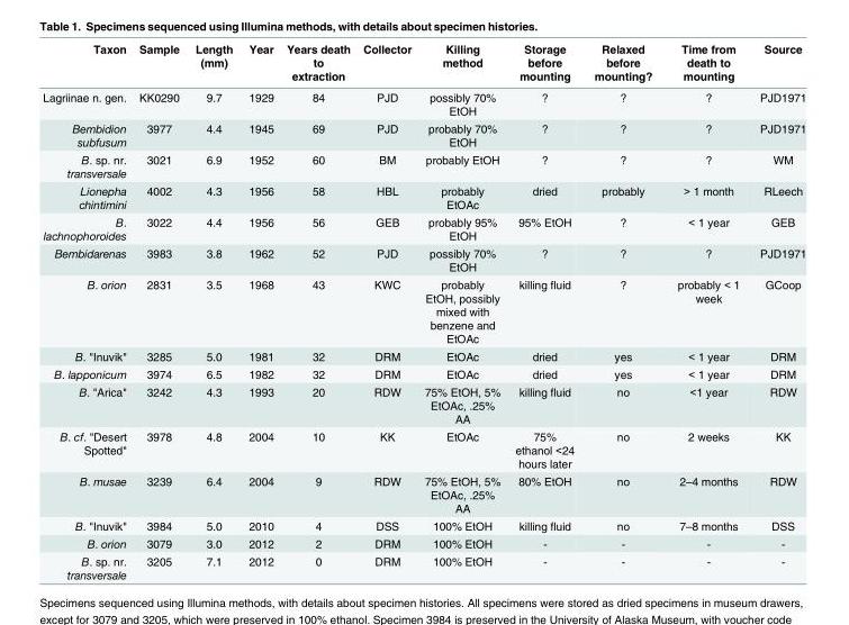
<table><thead><tr><td>Taxon</td><td>Sample</td><td>Length (mm)</td><td>Year</td><td>Years death to extraction</td><td>Collector</td><td>Killing method</td><td>Storage before mounting</td><td>Relaxed before mounting?</td><td>Time from death to mounting</td><td>Source</td></tr></thead><tbody><tr><td>Lagriinae n. gen.</td><td>KK0290</td><td>9.7</td><td>1929</td><td>84</td><td>PJD</td><td>possibly 70% EtOH</td><td>?</td><td>?</td><td>?</td><td>PJD1971</td></tr><tr><td>Bembidion subfusum</td><td>3977</td><td>4.4</td><td>1945</td><td>69</td><td>PJD</td><td>probably 70% EtOH</td><td>?</td><td>?</td><td>?</td><td>PJD1971</td></tr><tr><td>B. sp. nr. transversale</td><td>3021</td><td>6.9</td><td>1952</td><td>60</td><td>BM</td><td>probably EtOH</td><td>?</td><td>?</td><td>?</td><td>WM</td></tr><tr><td>Lionepha chintimini</td><td>4002</td><td>4.3</td><td>1956</td><td>58</td><td>HBL</td><td>probably EtOAc</td><td>dried</td><td>probably</td><td>&gt; 1 month</td><td>RLeech</td></tr><tr><td>B. lachnophoroides</td><td>3022</td><td>4.4</td><td>1956</td><td>56</td><td>GEB</td><td>probably 95% EtOH</td><td>95% EtOH</td><td>?</td><td>&lt; 1 year</td><td>GEB</td></tr><tr><td>Bembidarenas</td><td>3983</td><td>3.8</td><td>1962</td><td>52</td><td>PJD</td><td>possibly 70% EtOH</td><td>?</td><td>?</td><td>?</td><td>PJD1971</td></tr><tr><td>B. orion</td><td>2831</td><td>3.5</td><td>1968</td><td>43</td><td>KWC</td><td>probably EtOH, possibly mixed with benzene and EtOAc</td><td>killing fluid</td><td>?</td><td>probably &lt; 1 week</td><td>GCoop</td></tr><tr><td>B. &quot;Inuvik&quot;</td><td>3285</td><td>5.0</td><td>1981</td><td>32</td><td>DRM</td><td>EtOAc</td><td>dried</td><td>yes</td><td>&lt; 1 year</td><td>DRM</td></tr><tr><td>B. lapponicum</td><td>3974</td><td>6.5</td><td>1982</td><td>32</td><td>DRM</td><td>EtOAc</td><td>dried</td><td>yes</td><td>&lt; 1 year</td><td>DRM</td></tr><tr><td>B. &quot;Arica&quot;</td><td>3242</td><td>4.3</td><td>1993</td><td>20</td><td>RDW</td><td>75% EtOH, 5% EtOAc, .25% AA</td><td>killing fluid</td><td>no</td><td>&lt;1 year</td><td>RDW</td></tr><tr><td>B. cf. &quot;Desert Spotted&quot;</td><td>3978</td><td>4.8</td><td>2004</td><td>10</td><td>KK</td><td>EtOAc</td><td>75% ethanol &lt;24 hours later</td><td>no</td><td>2 weeks</td><td>KK</td></tr><tr><td>B. musae</td><td>3239</td><td>6.4</td><td>2004</td><td>9</td><td>RDW</td><td>75% EtOH, 5% EtOAc, .25% AA</td><td>80% EtOH</td><td>no</td><td>2–4 months</td><td>RDW</td></tr><tr><td>B. &quot;Inuvik&quot;</td><td>3984</td><td>5.0</td><td>2010</td><td>4</td><td>DSS</td><td>100% EtOH</td><td>killing fluid</td><td>no</td><td>7–8 months</td><td>DSS</td></tr><tr><td>B. orion</td><td>3079</td><td>3.0</td><td>2012</td><td>2</td><td>DRM</td><td>100% EtOH</td><td>-</td><td>-</td><td>-</td><td>-</td></tr><tr><td>B. sp. nr. transversale</td><td>3205</td><td>7.1</td><td>2012</td><td>0</td><td>DRM</td><td>100% EtOH</td><td>-</td><td>-</td><td>-</td><td>-</td></tr></tbody></table>